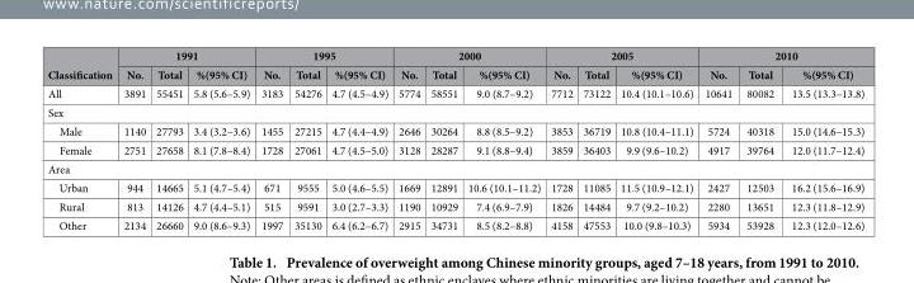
<table><thead><tr><td rowspan="2">Classification</td><td colspan="3">1991</td><td colspan="3">1995</td><td colspan="3">2000</td><td colspan="3">2005</td><td colspan="3">2010</td></tr><tr><td>No.</td><td>Total</td><td>%(95% CI)</td><td>No.</td><td>Total</td><td>%(95% CI)</td><td>No.</td><td>Total</td><td>%(95% CI)</td><td>No.</td><td>Total</td><td>%(95% CI)</td><td>No.</td><td>Total</td><td>%(95% CI)</td></tr></thead><tbody><tr><td>All</td><td>3891</td><td>55451</td><td>5.8 (5.6–5.9)</td><td>3183</td><td>54276</td><td>4.7 (4.5–4.9)</td><td>5774</td><td>58551</td><td>9.0 (8.7–9.2)</td><td>7712</td><td>73122</td><td>10.4 (10.1–10.6)</td><td>10641</td><td>80082</td><td>13.5 (13.3–13.8)</td></tr><tr><td colspan="16">Sex</td></tr><tr><td>Male</td><td>1140</td><td>27793</td><td>3.4 (3.2–3.6)</td><td>1455</td><td>27215</td><td>4.7 (4.4–4.9)</td><td>2646</td><td>30264</td><td>8.8 (8.5–9.2)</td><td>3853</td><td>36719</td><td>10.8 (10.4–11.1)</td><td>5724</td><td>40318</td><td>15.0 (14.6–15.3)</td></tr><tr><td>Female</td><td>2751</td><td>27658</td><td>8.1 (7.8–8.4)</td><td>1728</td><td>27061</td><td>4.7 (4.5–5.0)</td><td>3128</td><td>28287</td><td>9.1 (8.8–9.4)</td><td>3859</td><td>36403</td><td>9.9 (9.6–10.2)</td><td>4917</td><td>39764</td><td>12.0 (11.7–12.4)</td></tr><tr><td colspan="16">Area</td></tr><tr><td>Urban</td><td>944</td><td>14665</td><td>5.1 (4.7–5.4)</td><td>671</td><td>9555</td><td>5.0 (4.6–5.5)</td><td>1669</td><td>12891</td><td>10.6 (10.1–11.2)</td><td>1728</td><td>11085</td><td>11.5 (10.9–12.1)</td><td>2427</td><td>12503</td><td>16.2 (15.6–16.9)</td></tr><tr><td>Rural</td><td>813</td><td>14126</td><td>4.7 (4.4–5.1)</td><td>515</td><td>9591</td><td>3.0 (2.7–3.3)</td><td>1190</td><td>10929</td><td>7.4 (6.9–7.9)</td><td>1826</td><td>14484</td><td>9.7 (9.2–10.2)</td><td>2280</td><td>13651</td><td>12.3 (11.8–12.9)</td></tr><tr><td>Other</td><td>2134</td><td>26660</td><td>9.0 (8.6–9.3)</td><td>1997</td><td>35130</td><td>6.4 (6.2–6.7)</td><td>2915</td><td>34731</td><td>8.5 (8.2–8.8)</td><td>4158</td><td>47553</td><td>10.0 (9.8–10.3)</td><td>5934</td><td>53928</td><td>12.3 (12.0–12.6)</td></tr></tbody></table>